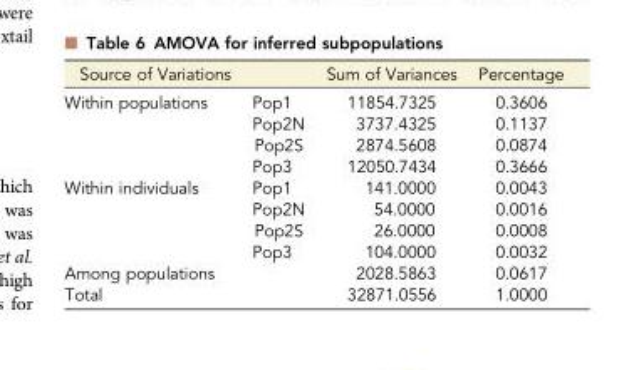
<table><thead><tr><td>Source of Variations</td><td></td><td>Sum of Variances</td><td>Percentage</td></tr></thead><tbody><tr><td rowspan="4">Within populations</td><td>Pop1</td><td>11854.7325</td><td>0.3606</td></tr><tr><td>Pop2N</td><td>3737.4325</td><td>0.1137</td></tr><tr><td>Pop2S</td><td>2874.5608</td><td>0.0874</td></tr><tr><td>Pop3</td><td>12050.7434</td><td>0.3666</td></tr><tr><td rowspan="4">Within individuals</td><td>Pop1</td><td>141.0000</td><td>0.0043</td></tr><tr><td>Pop2N</td><td>54.0000</td><td>0.0016</td></tr><tr><td>Pop2S</td><td>26.0000</td><td>0.0008</td></tr><tr><td>Pop3</td><td>104.0000</td><td>0.0032</td></tr><tr><td>Among populations</td><td></td><td>2028.5863</td><td>0.0617</td></tr><tr><td>Total</td><td></td><td>32871.0556</td><td>1.0000</td></tr></tbody></table>